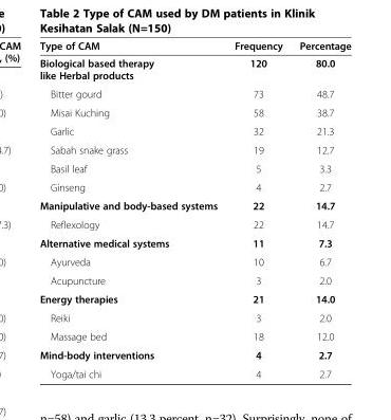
<table><thead><tr><td>Type of CAM</td><td>Frequency</td><td>Percentage</td></tr></thead><tbody><tr><td>Biological based therapy like Herbal products</td><td>120</td><td>80.0</td></tr><tr><td>Bitter gourd</td><td>73</td><td>48.7</td></tr><tr><td>Misai Kuching</td><td>58</td><td>38.7</td></tr><tr><td>Garlic</td><td>32</td><td>21.3</td></tr><tr><td>Sabah snake grass</td><td>19</td><td>12.7</td></tr><tr><td>Basil leaf</td><td>5</td><td>3.3</td></tr><tr><td>Ginseng</td><td>4</td><td>2.7</td></tr><tr><td>Manipulative and body-based systems</td><td>22</td><td>14.7</td></tr><tr><td>Reflexology</td><td>22</td><td>14.7</td></tr><tr><td>Alternative medical systems</td><td>11</td><td>7.3</td></tr><tr><td>Ayurveda</td><td>10</td><td>6.7</td></tr><tr><td>Acupuncture</td><td>3</td><td>2.0</td></tr><tr><td>Energy therapies</td><td>21</td><td>14.0</td></tr><tr><td>Reiki</td><td>3</td><td>2.0</td></tr><tr><td>Massage bed</td><td>18</td><td>12.0</td></tr><tr><td>Mind-body interventions</td><td>4</td><td>2.7</td></tr><tr><td>Yoga/tai chi</td><td>4</td><td>2.7</td></tr></tbody></table>